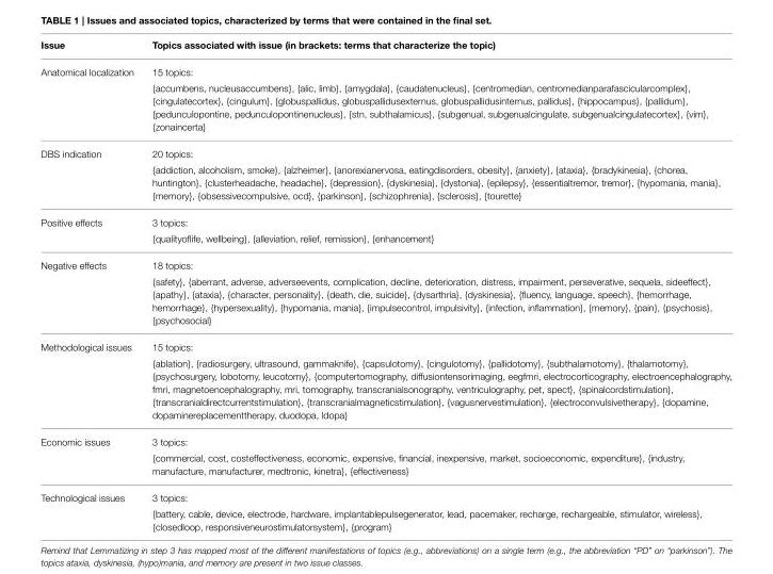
<table><thead><tr><td>Issue</td><td>Topics associated with issue (in brackets: terms that characterize the topic)</td></tr></thead><tbody><tr><td rowspan="2">Anatomical localization</td><td>15 topics:</td></tr><tr><td>{accumbens, nucleusaccumbens}, {alic, limb}, {amygdala}, {caudatenucleus}, {centromedian, centromedianparafascicularcomplex}, {cingulatecortex}, {cingulum}, {globuspallidus, globuspallidusexternus, globuspallidusinternus, pallidus}, {hippocampus}, {pallidum}, {pedunculopontine, pedunculopontinenucleus}, {stn, subthalamicus}, {subgenual, subgenualcingulate, subgenualcingulatecortex}, {vim}, {zonaincerta}</td></tr><tr><td rowspan="2">DBS indication</td><td>20 topics:</td></tr><tr><td>{addiction, alcoholism, smoke}, {alzheimer}, {anorexianervosa, eatingdisorders, obesity}, {anxiety}, {ataxia}, {bradykinesia}, {chorea, huntington}, {clusterheadache, headache}, {depression}, {dyskinesia}, {dystonia}, {epilepsy}, {essentialtremor, tremor}, {hypomania, mania}, {memory}, {obsessivecompulsive, ocd}, {parkinson}, {schizophrenia}, {sclerosis}, {tourette}</td></tr><tr><td rowspan="2">Positive effects</td><td>3 topics:</td></tr><tr><td>{qualityoflife, wellbeing}, {alleviation, relief, remission}, {enhancement}</td></tr><tr><td rowspan="2">Negative effects</td><td>18 topics:</td></tr><tr><td>{safety}, {aberrant, adverse, adverseevents, complication, decline, deterioration, distress, impairment, perseverative, sequela, sideeffect}, {apathy}, {ataxia}, {character, personality}, {death, die, suicide}, {dysarthria}, {dyskinesia}, {fluency, language, speech}, {hemorrhage, hemorrhage}, {hypersexuality}, {hypomania, mania}, {impulsecontrol, impulsivity}, {infection, inflammation}, {memory}, {pain}, {psychosis}, {psychosocial}</td></tr><tr><td rowspan="2">Methodological issues</td><td>15 topics:</td></tr><tr><td>{ablation}, {radiosurgery, ultrasound, gammaknife}, {capsulotomy}, {cingulotomy}, {pallidotomy}, {subthalamotomy}, {thalamotomy}, {psychosurgery, lobotomy, leucotomy}, {computertomography, diffusiontensorimaging, eegfmri, electrocorticography, electroencephalography, fmri, magnetoencephalography, mri, tomography, transcranialsonography, ventriculography, pet, spect}, {spinalcordstimulation}, {transcranialdirectcurrentstimulation}, {transcranialmagneticstimulation}, {vagusnervestimulation}, {electroconvulsivetherapy}, {dopamine, dopaminereplacementtherapy, duodopa, ldopa}</td></tr><tr><td rowspan="2">Economic issues</td><td>3 topics:</td></tr><tr><td>{commercial, cost, costeffectiveness, economic, expensive, financial, inexpensive, market, socioeconomic, expenditure}, {industry, manufacture, manufacturer, medtronic, kinetra}, {effectiveness}</td></tr><tr><td rowspan="2">Technological issues</td><td>3 topics:</td></tr><tr><td>{battery, cable, device, electrode, hardware, implantablepulsegenerator, lead, pacemaker, recharge, rechargeable, stimulator, wireless}, {closedloop, responsiveneurostimulatorsystem}, {program}</td></tr></tbody></table>